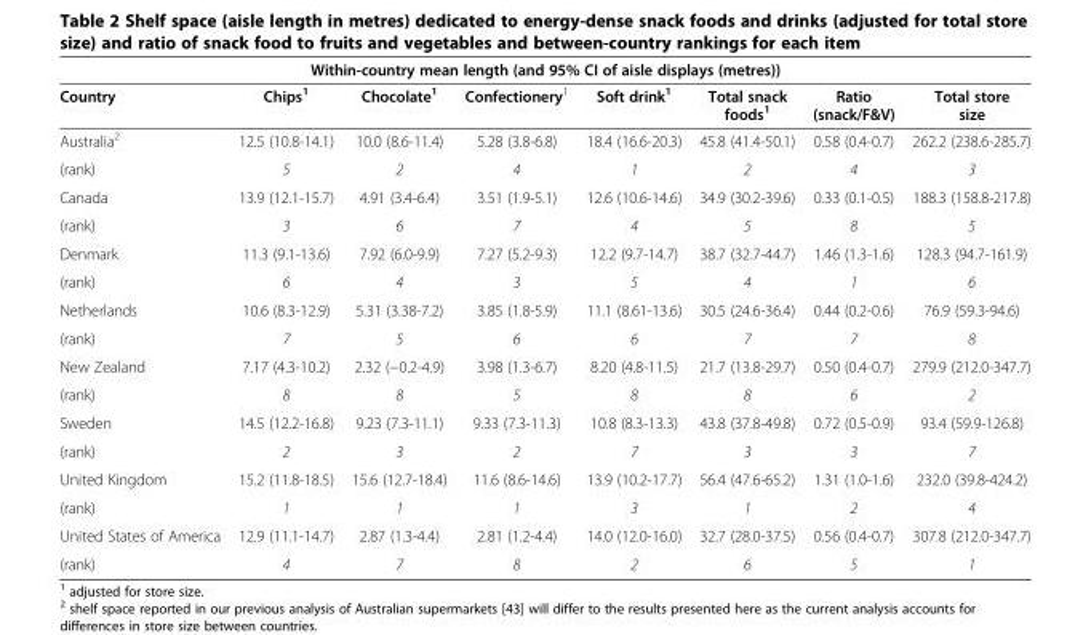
<table><thead><tr><td colspan="8">Within-country mean length (and 95% CI of aisle displays (metres))</td></tr><tr><td>Country</td><td>Chips<sup>1</sup></td><td>Chocolate<sup>1</sup></td><td>Confectionery<sup>1</sup></td><td>Soft drink<sup>1</sup></td><td>Total snack foods<sup>1</sup></td><td>Ratio (snack/F&amp;V)</td><td>Total store size</td></tr></thead><tbody><tr><td>Australia<sup>2</sup></td><td>12.5 (10.8-14.1)</td><td>10.0 (8.6-11.4)</td><td>5.28 (3.8-6.8)</td><td>18.4 (16.6-20.3)</td><td>45.8 (41.4-50.1)</td><td>0.58 (0.4-0.7)</td><td>262.2 (238.6-285.7)</td></tr><tr><td>(rank)</td><td>5</td><td>2</td><td>4</td><td>1</td><td>2</td><td>4</td><td>3</td></tr><tr><td>Canada</td><td>13.9 (12.1-15.7)</td><td>4.91 (3.4-6.4)</td><td>3.51 (1.9-5.1)</td><td>12.6 (10.6-14.6)</td><td>34.9 (30.2-39.6)</td><td>0.33 (0.1-0.5)</td><td>188.3 (158.8-217.8)</td></tr><tr><td>(rank)</td><td>3</td><td>6</td><td>7</td><td>4</td><td>5</td><td>8</td><td>5</td></tr><tr><td>Denmark</td><td>11.3 (9.1-13.6)</td><td>7.92 (6.0-9.9)</td><td>7.27 (5.2-9.3)</td><td>12.2 (9.7-14.7)</td><td>38.7 (32.7-44.7)</td><td>1.46 (1.3-1.6)</td><td>128.3 (94.7-161.9)</td></tr><tr><td>(rank)</td><td>6</td><td>4</td><td>3</td><td>5</td><td>4</td><td>1</td><td>6</td></tr><tr><td>Netherlands</td><td>10.6 (8.3-12.9)</td><td>5.31 (3.38-7.2)</td><td>3.85 (1.8-5.9)</td><td>11.1 (8.61-13.6)</td><td>30.5 (24.6-36.4)</td><td>0.44 (0.2-0.6)</td><td>76.9 (59.3-94.6)</td></tr><tr><td>(rank)</td><td>7</td><td>5</td><td>6</td><td>6</td><td>7</td><td>7</td><td>8</td></tr><tr><td>New Zealand</td><td>7.17 (4.3-10.2)</td><td>2.32 (−0.2-4.9)</td><td>3.98 (1.3-6.7)</td><td>8.20 (4.8-11.5)</td><td>21.7 (13.8-29.7)</td><td>0.50 (0.4-0.7)</td><td>279.9 (212.0-347.7)</td></tr><tr><td>(rank)</td><td>8</td><td>8</td><td>5</td><td>8</td><td>8</td><td>6</td><td>2</td></tr><tr><td>Sweden</td><td>14.5 (12.2-16.8)</td><td>9.23 (7.3-11.1)</td><td>9.33 (7.3-11.3)</td><td>10.8 (8.3-13.3)</td><td>43.8 (37.8-49.8)</td><td>0.72 (0.5-0.9)</td><td>93.4 (59.9-126.8)</td></tr><tr><td>(rank)</td><td>2</td><td>3</td><td>2</td><td>7</td><td>3</td><td>3</td><td>7</td></tr><tr><td>United Kingdom</td><td>15.2 (11.8-18.5)</td><td>15.6 (12.7-18.4)</td><td>11.6 (8.6-14.6)</td><td>13.9 (10.2-17.7)</td><td>56.4 (47.6-65.2)</td><td>1.31 (1.0-1.6)</td><td>232.0 (39.8-424.2)</td></tr><tr><td>(rank)</td><td>1</td><td>1</td><td>1</td><td>3</td><td>1</td><td>2</td><td>4</td></tr><tr><td>United States of America</td><td>12.9 (11.1-14.7)</td><td>2.87 (1.3-4.4)</td><td>2.81 (1.2-4.4)</td><td>14.0 (12.0-16.0)</td><td>32.7 (28.0-37.5)</td><td>0.56 (0.4-0.7)</td><td>307.8 (212.0-347.7)</td></tr><tr><td>(rank)</td><td>4</td><td>7</td><td>8</td><td>2</td><td>6</td><td>5</td><td>1</td></tr></tbody></table>